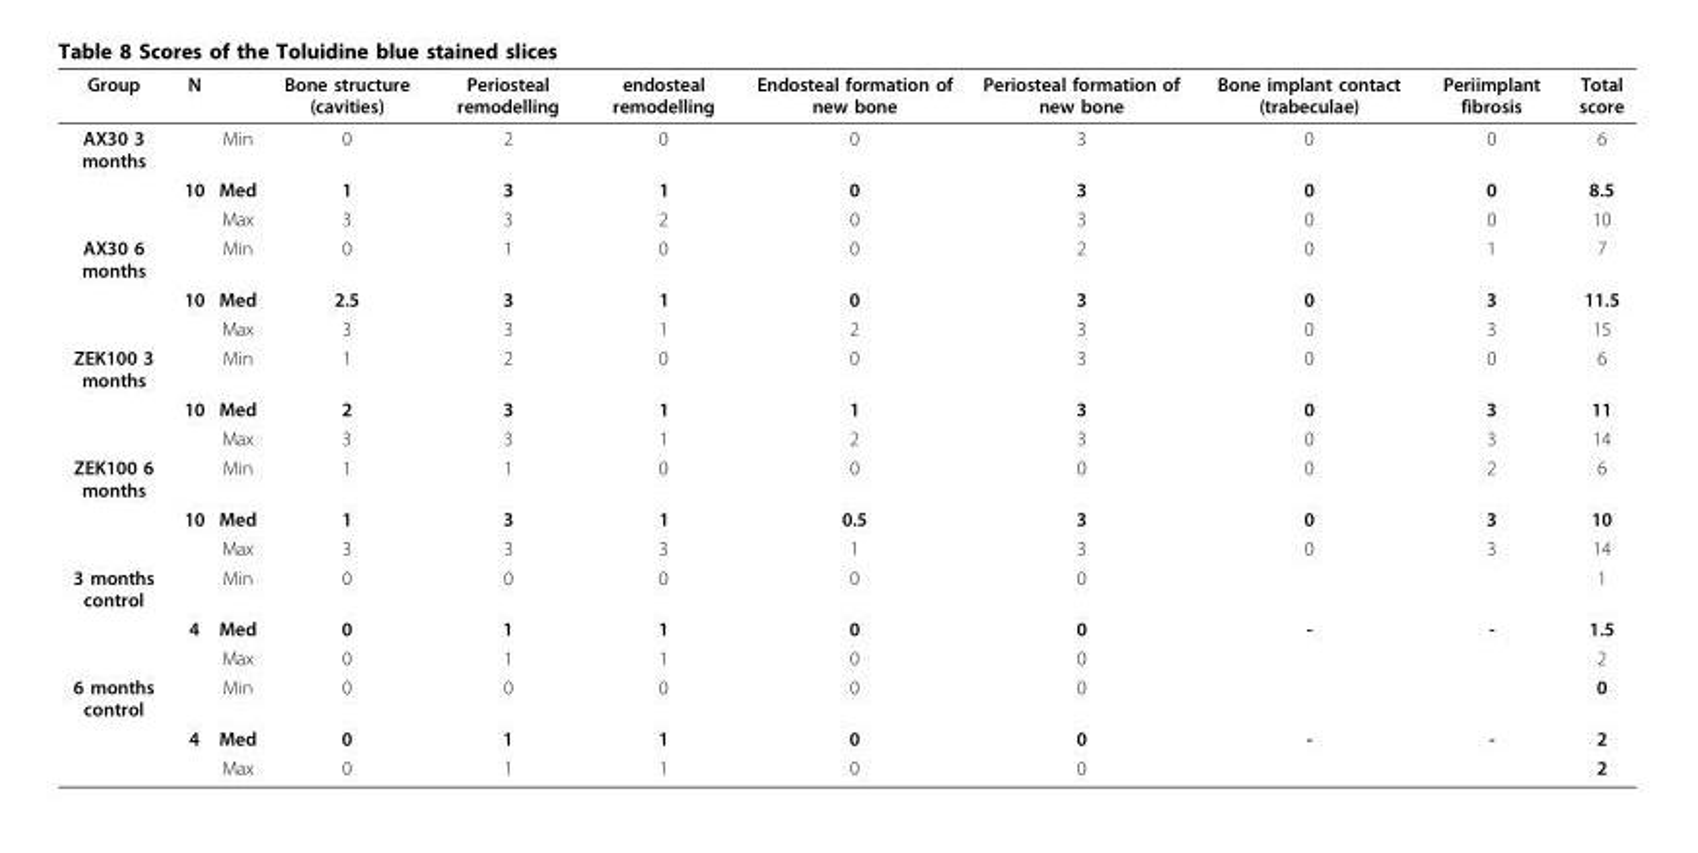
<table><thead><tr><td>Group</td><td>N</td><td></td><td>Bone structure (cavities)</td><td>Periosteal remodelling</td><td>endosteal remodelling</td><td>Endosteal formation of new bone</td><td>Periosteal formation of new bone</td><td>Bone implant contact (trabeculae)</td><td>Periimplant fibrosis</td><td>Total score</td></tr></thead><tbody><tr><td rowspan="3">AX30 3 months</td><td></td><td>Min</td><td>0</td><td>2</td><td>0</td><td>0</td><td>3</td><td>0</td><td>0</td><td>6</td></tr><tr><td>10</td><td>Med</td><td>1</td><td>3</td><td>1</td><td>0</td><td>3</td><td>0</td><td>0</td><td>8.5</td></tr><tr><td></td><td>Max</td><td>3</td><td>3</td><td>2</td><td>0</td><td>3</td><td>0</td><td>0</td><td>10</td></tr><tr><td rowspan="3">AX30 6 months</td><td></td><td>Min</td><td>0</td><td>1</td><td>0</td><td>0</td><td>2</td><td>0</td><td>1</td><td>7</td></tr><tr><td>10</td><td>Med</td><td>2.5</td><td>3</td><td>1</td><td>0</td><td>3</td><td>0</td><td>3</td><td>11.5</td></tr><tr><td></td><td>Max</td><td>3</td><td>3</td><td>1</td><td>2</td><td>3</td><td>0</td><td>3</td><td>15</td></tr><tr><td rowspan="3">ZEK100 3 months</td><td></td><td>Min</td><td>1</td><td>2</td><td>0</td><td>0</td><td>3</td><td>0</td><td>0</td><td>6</td></tr><tr><td>10</td><td>Med</td><td>2</td><td>3</td><td>1</td><td>1</td><td>3</td><td>0</td><td>3</td><td>11</td></tr><tr><td></td><td>Max</td><td>3</td><td>3</td><td>1</td><td>2</td><td>3</td><td>0</td><td>3</td><td>14</td></tr><tr><td rowspan="3">ZEK100 6 months</td><td></td><td>Min</td><td>1</td><td>1</td><td>0</td><td>0</td><td>0</td><td>0</td><td>2</td><td>6</td></tr><tr><td>10</td><td>Med</td><td>1</td><td>3</td><td>1</td><td>0.5</td><td>3</td><td>0</td><td>3</td><td>10</td></tr><tr><td></td><td>Max</td><td>3</td><td>3</td><td>3</td><td>1</td><td>3</td><td>0</td><td>3</td><td>14</td></tr><tr><td rowspan="3">3 months control</td><td></td><td>Min</td><td>0</td><td>0</td><td>0</td><td>0</td><td>0</td><td></td><td></td><td>1</td></tr><tr><td>4</td><td>Med</td><td>0</td><td>1</td><td>1</td><td>0</td><td>0</td><td>-</td><td>-</td><td>1.5</td></tr><tr><td></td><td>Max</td><td>0</td><td>1</td><td>1</td><td>0</td><td>0</td><td></td><td></td><td>2</td></tr><tr><td rowspan="3">6 months control</td><td></td><td>Min</td><td>0</td><td>0</td><td>0</td><td>0</td><td>0</td><td></td><td></td><td>0</td></tr><tr><td>4</td><td>Med</td><td>0</td><td>1</td><td>1</td><td>0</td><td>0</td><td>-</td><td>-</td><td>2</td></tr><tr><td></td><td>Max</td><td>0</td><td>1</td><td>1</td><td>0</td><td>0</td><td></td><td></td><td>2</td></tr></tbody></table>